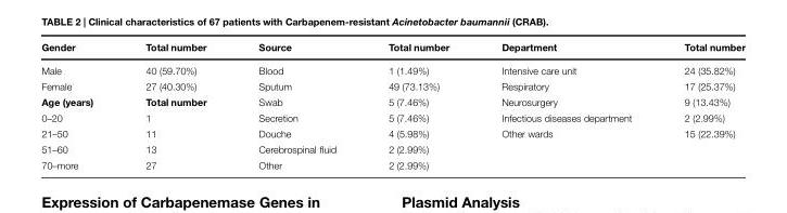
<table><thead><tr><td>Gender</td><td>Total number</td><td>Source</td><td>Total number</td><td>Department</td><td>Total number</td></tr></thead><tbody><tr><td>Male</td><td>40 (59.70%)</td><td>Blood</td><td>1 (1.49%)</td><td>Intensive care unit</td><td>24 (35.82%)</td></tr><tr><td>Female</td><td>27 (40.30%)</td><td>Sputum</td><td>49 (73.13%)</td><td>Respiratory</td><td>17 (25.37%)</td></tr><tr><td>Age (years)</td><td>Total number</td><td>Swab</td><td>5 (7.46%)</td><td>Neurosurgery</td><td>9 (13.43%)</td></tr><tr><td>0–20</td><td>1</td><td>Secretion</td><td>5 (7.46%)</td><td>Infectious diseases department</td><td>2 (2.99%)</td></tr><tr><td>21–50</td><td>11</td><td>Douche</td><td>4 (5.98%)</td><td>Other wards</td><td>15 (22.39%)</td></tr><tr><td>51–60</td><td>13</td><td>Cerebrospinal fluid</td><td>2 (2.99%)</td><td></td><td></td></tr><tr><td>70–more</td><td>27</td><td>Other</td><td>2 (2.99%)</td><td></td><td></td></tr></tbody></table>